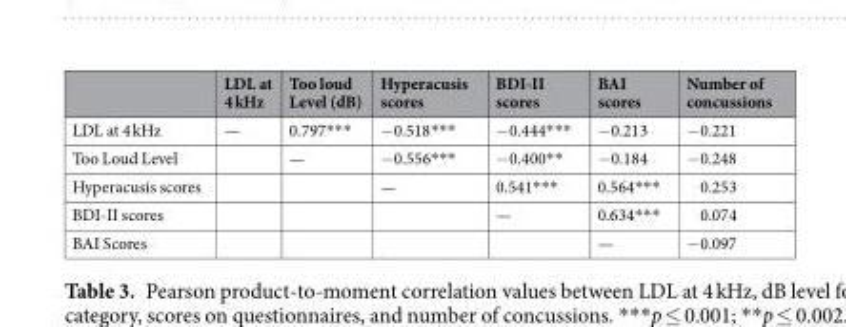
<table><thead><tr><td></td><td>LDL at 4 kHz</td><td>Too loud Level (dB)</td><td>Hyperacusis scores</td><td>BDI-II scores</td><td>BAI scores</td><td>Number of concussions</td></tr></thead><tbody><tr><td>LDL at 4 kHz</td><td>—</td><td>0.797***</td><td>−0.518***</td><td>−0.444***</td><td>−0.213</td><td>−0.221</td></tr><tr><td>Too Loud Level</td><td></td><td>—</td><td>−0.556***</td><td>−0.400**</td><td>−0.184</td><td>−0.248</td></tr><tr><td>Hyperacusis scores</td><td></td><td></td><td>—</td><td>0.541***</td><td>0.564***</td><td>0.253</td></tr><tr><td>BDI-II scores</td><td></td><td></td><td></td><td>—</td><td>0.634***</td><td>0.074</td></tr><tr><td>BAI Scores</td><td></td><td></td><td></td><td></td><td>—</td><td>−0.097</td></tr></tbody></table>